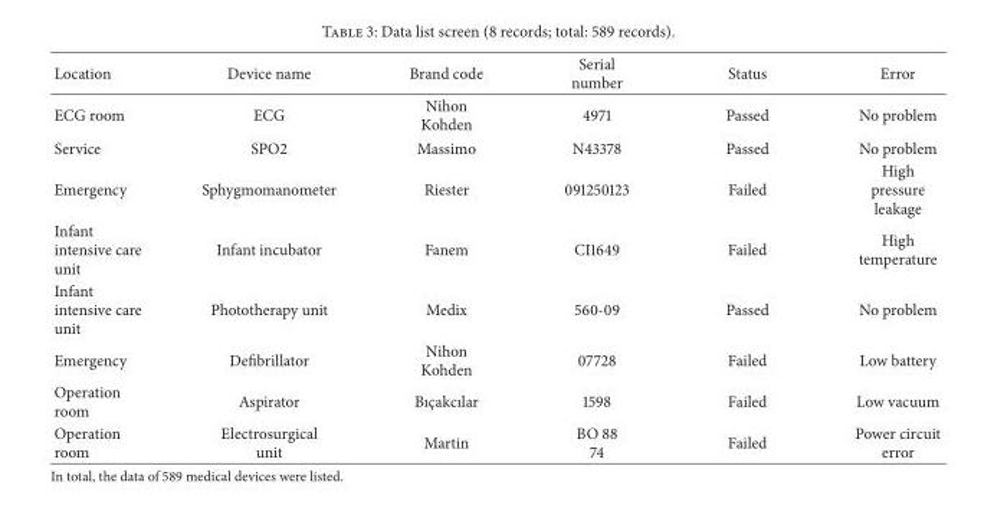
<table><thead><tr><td>Location</td><td>Device name</td><td>Brand code</td><td>Serial number</td><td>Status</td><td>Error</td></tr></thead><tbody><tr><td>ECG room</td><td>ECG</td><td>Nihon Kohden</td><td>4971</td><td>Passed</td><td>No problem</td></tr><tr><td>Service</td><td>SPO2</td><td>Massimo</td><td>N43378</td><td>Passed</td><td>No problem</td></tr><tr><td>Emergency</td><td>Sphygmomanometer</td><td>Riester</td><td>091250123</td><td>Failed</td><td>High pressure leakage</td></tr><tr><td>Infant intensive care unit</td><td>Infant incubator</td><td>Fanem</td><td>CI1649</td><td>Failed</td><td>High temperature</td></tr><tr><td>Infant intensive care unit</td><td>Phototherapy unit</td><td>Medix</td><td>560-09</td><td>Passed</td><td>No problem</td></tr><tr><td>Emergency</td><td>Defibrillator</td><td>Nihon Kohden</td><td>07728</td><td>Failed</td><td>Low battery</td></tr><tr><td>Operation room</td><td>Aspirator</td><td>Bıc¸akcılar</td><td>1598</td><td>Failed</td><td>Low vacuum</td></tr><tr><td>Operation room</td><td>Electrosurgical unit</td><td>Martin</td><td>BO 88 74</td><td>Failed</td><td>Power circuit error</td></tr></tbody></table>